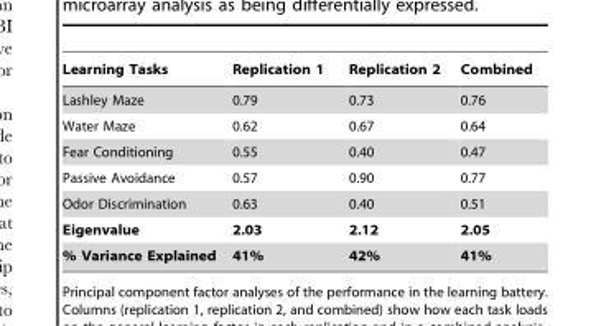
<table><thead><tr><td>Learning Tasks</td><td>Replication 1</td><td>Replication 2</td><td>Combined</td></tr></thead><tbody><tr><td>Lashley Maze</td><td>0.79</td><td>0.73</td><td>0.76</td></tr><tr><td>Water Maze</td><td>0.62</td><td>0.67</td><td>0.64</td></tr><tr><td>Fear Conditioning</td><td>0.55</td><td>0.40</td><td>0.47</td></tr><tr><td>Passive Avoidance</td><td>0.57</td><td>0.90</td><td>0.77</td></tr><tr><td>Odor Discrimination</td><td>0.63</td><td>0.40</td><td>0.51</td></tr><tr><td>Eigenvalue</td><td>2.03</td><td>2.12</td><td>2.05</td></tr><tr><td>% Variance Explained</td><td>41%</td><td>42%</td><td>41%</td></tr></tbody></table>